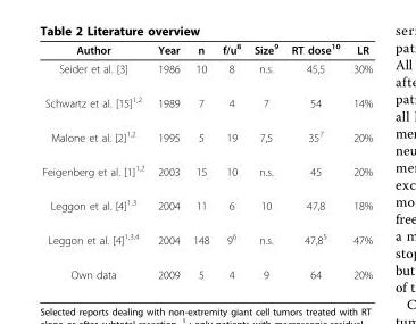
<table><thead><tr><td>Author</td><td>Year</td><td>n</td><td>f/u<sup>8</sup></td><td>Size<sup>9</sup></td><td>RT dose<sup>10</sup></td><td>LR</td></tr></thead><tbody><tr><td>Seider et al. [3]</td><td>1986</td><td>10</td><td>8</td><td>n.s.</td><td>45,5</td><td>30%</td></tr><tr><td>Schwartz et al. [15]<sup>1,2</sup></td><td>1989</td><td>7</td><td>4</td><td>7</td><td>54</td><td>14%</td></tr><tr><td>Malone et al. [2]<sup>1,2</sup></td><td>1995</td><td>5</td><td>19</td><td>7,5</td><td>35<sup>7</sup></td><td>20%</td></tr><tr><td>Feigenberg et al. [1]<sup>1,2</sup></td><td>2003</td><td>15</td><td>10</td><td>n.s.</td><td>45</td><td>20%</td></tr><tr><td>Leggon et al. [4]<sup>1,3</sup></td><td>2004</td><td>11</td><td>6</td><td>10</td><td>47,8</td><td>18%</td></tr><tr><td>Leggon et al. [4]<sup>1,3,4</sup></td><td>2004</td><td>148</td><td>9<sup>6</sup></td><td>n.s.</td><td>47,8<sup>5</sup></td><td>47%</td></tr><tr><td>Own data</td><td>2009</td><td>5</td><td>4</td><td>9</td><td>64</td><td>20%</td></tr></tbody></table>